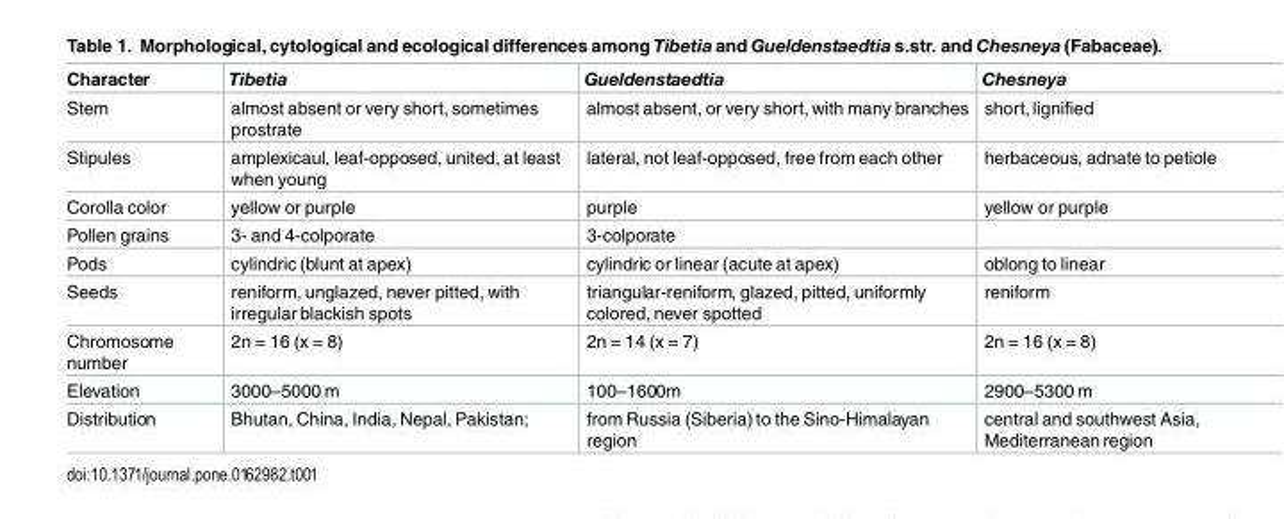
<table><thead><tr><td>Character</td><td>Tibetia</td><td>Gueldenstaedtia</td><td>Chesneya</td></tr></thead><tbody><tr><td>Stem</td><td>almost absent or very short, sometimes prostrate</td><td>almost absent, or very short,with many branches</td><td>short, lignified</td></tr><tr><td>Stipules</td><td>amplexicaul, leaf-opposed, united, at least when young</td><td>lateral, not leaf-opposed, free from each other</td><td>herbaceous, adnate to petiole</td></tr><tr><td>Corolla color</td><td>yellow or purple</td><td>purple</td><td>yellow or purple</td></tr><tr><td>Pollen grains</td><td>3- and 4-colporate</td><td>3-colporate</td><td></td></tr><tr><td>Pods</td><td>cylindric (blunt at apex)</td><td>cylindric or linear (acute at apex)</td><td>oblong to linear</td></tr><tr><td>Seeds</td><td>reniform, unglazed, never pitted, with irregular blackish spots</td><td>triangular-reniform, glazed, pitted, uniformly colored, never spotted</td><td>reniform</td></tr><tr><td>Chromosome number</td><td>2n = 16 (x = 8)</td><td>2n = 14 (x = 7)</td><td>2n = 16 (x = 8)</td></tr><tr><td>Elevation</td><td>3000–5000 m</td><td>100–1600m</td><td>2900–5300 m</td></tr><tr><td>Distribution</td><td>Bhutan, China, India, Nepal, Pakistan;</td><td>from Russia (Siberia) to the Sino-Himalayan region</td><td>central and southwest Asia, Mediterranean region</td></tr></tbody></table>